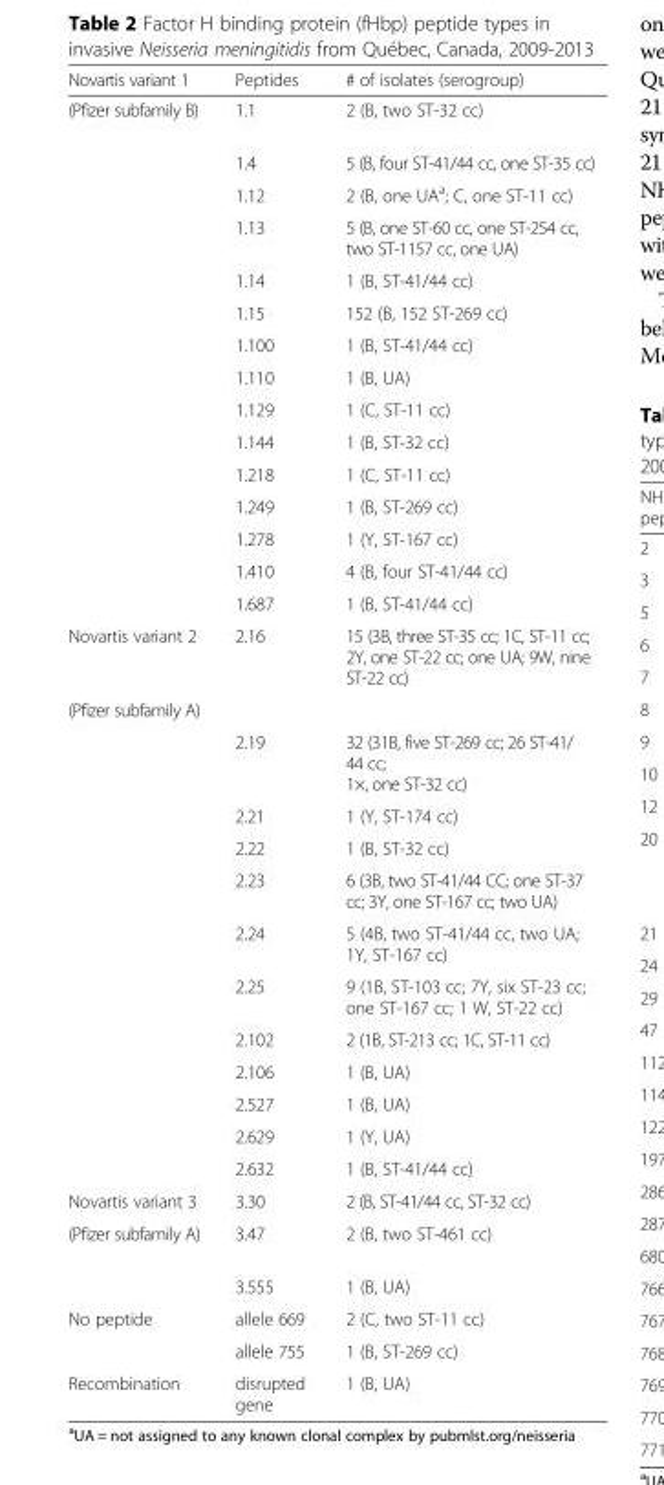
<table><thead><tr><td>Novartis variant 1</td><td>Peptides</td><td># of isolates (serogroup)</td></tr></thead><tbody><tr><td rowspan="15">(Pfizer subfamily B)</td><td>1.1</td><td>2 (B, two ST-32 cc)</td></tr><tr><td>1.4</td><td>5 (B, four ST-41/44 cc, one ST-35 cc)</td></tr><tr><td>1.12</td><td>2 (B, one UA<sup>a</sup>; C, one ST-11 cc)</td></tr><tr><td>1.13</td><td>5 (B, one ST-60 cc, one ST-254 cc, two ST-1157 cc, one UA)</td></tr><tr><td>1.14</td><td>1 (B, ST-41/44 cc)</td></tr><tr><td>1.15</td><td>152 (B, 152 ST-269 cc)</td></tr><tr><td>1.100</td><td>1 (B, ST-41/44 cc)</td></tr><tr><td>1.110</td><td>1 (B, UA)</td></tr><tr><td>1.129</td><td>1 (C, ST-11 cc)</td></tr><tr><td>1.144</td><td>1 (B, ST-32 cc)</td></tr><tr><td>1.218</td><td>1 (C, ST-11 cc)</td></tr><tr><td>1.249</td><td>1 (B, ST-269 cc)</td></tr><tr><td>1.278</td><td>1 (Y, ST-167 cc)</td></tr><tr><td>1.410</td><td>4 (B, four ST-41/44 cc)</td></tr><tr><td>1.687</td><td>1 (B, ST-41/44 cc)</td></tr><tr><td>Novartis variant 2</td><td>2.16</td><td>15 (3B, three ST-35 cc; 1C, ST-11 cc; 2Y, one ST-22 cc; one UA; 9W, nine ST-22 cc)</td></tr><tr><td colspan="3">(Pfizer subfamily A)</td></tr><tr><td></td><td>2.19</td><td>32 (31B, five ST-269 cc; 26 ST-41/ 44 cc; 1×, one ST-32 cc)</td></tr><tr><td></td><td>2.21</td><td>1 (Y, ST-174 cc)</td></tr><tr><td></td><td>2.22</td><td>1 (B, ST-32 cc)</td></tr><tr><td></td><td>2.23</td><td>6 (3B, two ST-41/44 CC; one ST-37 cc; 3Y, one ST-167 cc; two UA)</td></tr><tr><td></td><td>2.24</td><td>5 (4B, two ST-41/44 cc, two UA; 1Y, ST-167 cc)</td></tr><tr><td></td><td>2.25</td><td>9 (1B, ST-103 cc; 7Y, six ST-23 cc; one ST-167 cc; 1 W, ST-22 cc)</td></tr><tr><td></td><td>2.102</td><td>2 (1B, ST-213 cc; 1C, ST-11 cc)</td></tr><tr><td></td><td>2.106</td><td>1 (B, UA)</td></tr><tr><td></td><td>2.527</td><td>1 (B, UA)</td></tr><tr><td></td><td>2.629</td><td>1 (Y, UA)</td></tr><tr><td></td><td>2.632</td><td>1 (B, ST-41/44 cc)</td></tr><tr><td>Novartis variant 3</td><td>3.30</td><td>2 (B, ST-41/44 cc, ST-32 cc)</td></tr><tr><td rowspan="2">(Pfizer subfamily A)</td><td>3.47</td><td>2 (B, two ST-461 cc)</td></tr><tr><td>3.555</td><td>1 (B, UA)</td></tr><tr><td rowspan="2">No peptide</td><td>allele 669</td><td>2 (C, two ST-11 cc)</td></tr><tr><td>allele 755</td><td>1 (B, ST-269 cc)</td></tr><tr><td>Recombination</td><td>disrupted gene</td><td>1 (B, UA)</td></tr></tbody></table>